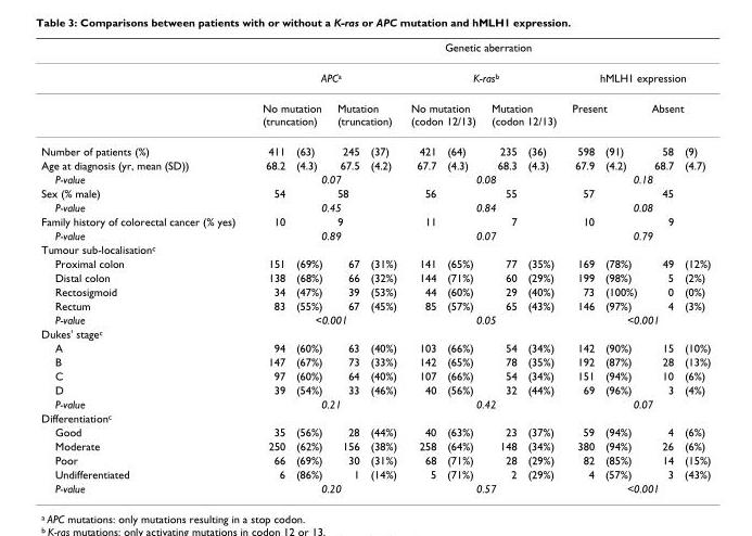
<table><thead><tr><td rowspan="4">Number of patients (%)</td><td colspan="12">Genetic aberration</td></tr><tr><td colspan="4">APCa</td><td colspan="4">K-rasb</td><td colspan="4">hMLH1 expression</td></tr><tr><td colspan="2">No mutation (truncation)</td><td colspan="2">Mutation (truncation)</td><td colspan="2">No mutation (codon 12/13)</td><td colspan="2">Mutation (codon 12/13)</td><td colspan="2">Present</td><td colspan="2">Absent</td></tr><tr><td>411</td><td>(63)</td><td>245</td><td>(37)</td><td>421</td><td>(64)</td><td>235</td><td>(36)</td><td>598</td><td>(91)</td><td>58</td><td>(9)</td></tr></thead><tbody><tr><td>Age at diagnosis (yr, mean (SD))</td><td>68.2</td><td>(4.3)</td><td>67.5</td><td>(4.2)</td><td>67.7</td><td>(4.3)</td><td>68.3</td><td>(4.3)</td><td>67.9</td><td>(4.2)</td><td>68.7</td><td>(4.7)</td></tr><tr><td>P-value</td><td colspan="4">0.07</td><td colspan="4">0.08</td><td colspan="4">0.18</td></tr><tr><td>Sex (% male)</td><td>54</td><td></td><td colspan="2">58</td><td>56</td><td></td><td>55</td><td></td><td>57</td><td></td><td>45</td><td></td></tr><tr><td>P-value</td><td colspan="4">0.45</td><td colspan="4">0.84</td><td colspan="4">0.08</td></tr><tr><td>Family history of colorectal cancer (% yes)</td><td>10</td><td></td><td colspan="2">9</td><td>11</td><td></td><td>7</td><td></td><td>10</td><td></td><td>9</td><td></td></tr><tr><td>P-value</td><td colspan="4">0.89</td><td colspan="4">0.07</td><td colspan="4">0.79</td></tr><tr><td colspan="13">Tumour sub-localisationc</td></tr><tr><td>Proximal colon</td><td>151</td><td>(69%)</td><td>67</td><td>(31%)</td><td>141</td><td>(65%)</td><td>77</td><td>(35%)</td><td>169</td><td>(78%)</td><td>49</td><td>(12%)</td></tr><tr><td>Distal colon</td><td>138</td><td>(68%)</td><td>66</td><td>(32%)</td><td>144</td><td>(71%)</td><td>60</td><td>(29%)</td><td>199</td><td>(98%)</td><td>5</td><td>(2%)</td></tr><tr><td>Rectosigmoid</td><td>34</td><td>(47%)</td><td>39</td><td>(53%)</td><td>44</td><td>(60%)</td><td>29</td><td>(40%)</td><td>73</td><td>(100%)</td><td>0</td><td>(0%)</td></tr><tr><td>Rectum</td><td>83</td><td>(55%)</td><td>67</td><td>(45%)</td><td>85</td><td>(57%)</td><td>65</td><td>(43%)</td><td>146</td><td>(97%)</td><td>4</td><td>(3%)</td></tr><tr><td>P-value</td><td colspan="4">&lt;0.001</td><td colspan="4">0.05</td><td colspan="4">&lt;0.001</td></tr><tr><td colspan="13">Dukes&#x27; stagec</td></tr><tr><td>A</td><td>94</td><td>(60%)</td><td>63</td><td>(40%)</td><td>103</td><td>(66%)</td><td>54</td><td>(34%)</td><td>142</td><td>(90%)</td><td>15</td><td>(10%)</td></tr><tr><td>B</td><td>147</td><td>(67%)</td><td>73</td><td>(33%)</td><td>142</td><td>(65%)</td><td>78</td><td>(35%)</td><td>192</td><td>(87%)</td><td>28</td><td>(13%)</td></tr><tr><td>C</td><td>97</td><td>(60%)</td><td>64</td><td>(40%)</td><td>107</td><td>(66%)</td><td>54</td><td>(34%)</td><td>151</td><td>(94%)</td><td>10</td><td>(6%)</td></tr><tr><td>D</td><td>39</td><td>(54%)</td><td>33</td><td>(46%)</td><td>40</td><td>(56%)</td><td>32</td><td>(44%)</td><td>69</td><td>(96%)</td><td>3</td><td>(4%)</td></tr><tr><td>P-value</td><td colspan="4">0.21</td><td colspan="4">0.42</td><td colspan="4">0.07</td></tr><tr><td colspan="13">Differentiationc</td></tr><tr><td>Good</td><td>35</td><td>(56%)</td><td>28</td><td>(44%)</td><td>40</td><td>(63%)</td><td>23</td><td>(37%)</td><td>59</td><td>(94%)</td><td>4</td><td>(6%)</td></tr><tr><td>Moderate</td><td>250</td><td>(62%)</td><td>156</td><td>(38%)</td><td>258</td><td>(64%)</td><td>148</td><td>(34%)</td><td>380</td><td>(94%)</td><td>26</td><td>(6%)</td></tr><tr><td>Poor</td><td>66</td><td>(69%)</td><td>30</td><td>(31%)</td><td>68</td><td>(71%)</td><td>28</td><td>(29%)</td><td>82</td><td>(85%)</td><td>14</td><td>(15%)</td></tr><tr><td>Undifferentiated</td><td>6</td><td>(86%)</td><td>1</td><td>(14%)</td><td>5</td><td>(71%)</td><td>2</td><td>(29%)</td><td>4</td><td>(57%)</td><td>3</td><td>(43%)</td></tr><tr><td>P-value</td><td colspan="4">0.20</td><td colspan="4">0.57</td><td colspan="4">&lt;0.001</td></tr></tbody></table>